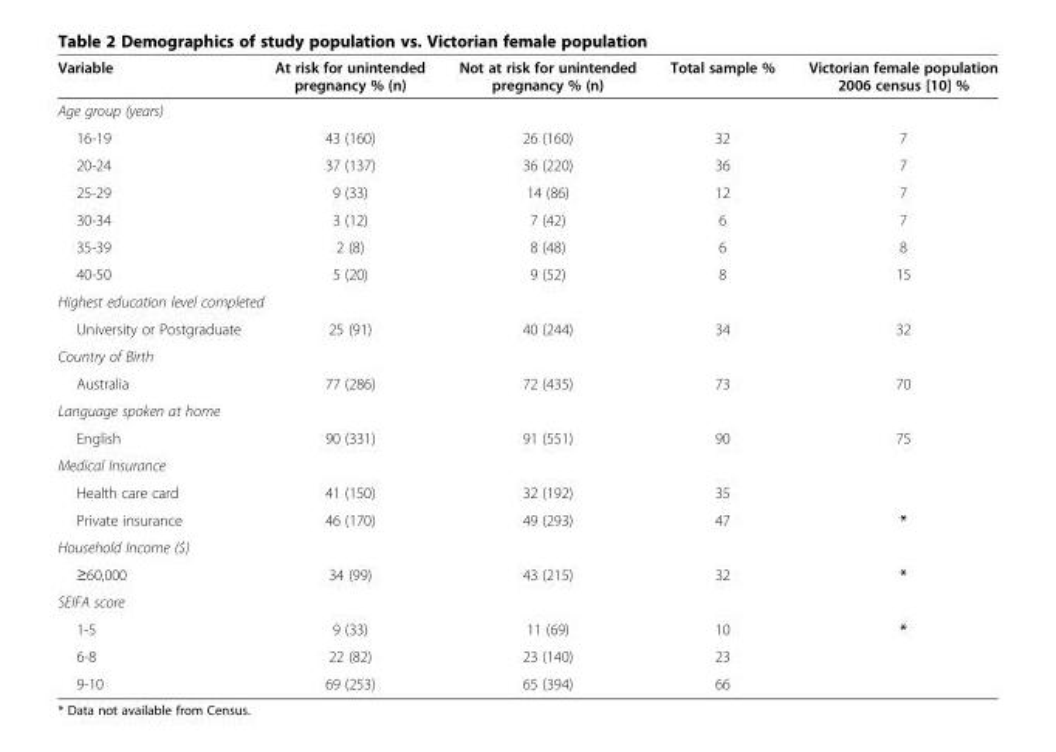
<table><thead><tr><td>Variable</td><td>At risk for unintended pregnancy % (n)</td><td>Not at risk for unintended pregnancy % (n)</td><td>Total sample %</td><td>Victorian female population 2006 census [10] %</td></tr></thead><tbody><tr><td colspan="5">Age group (years)</td></tr><tr><td>16-19</td><td>43 (160)</td><td>26 (160)</td><td>32</td><td>7</td></tr><tr><td>20-24</td><td>37 (137)</td><td>36 (220)</td><td>36</td><td>7</td></tr><tr><td>25-29</td><td>9 (33)</td><td>14 (86)</td><td>12</td><td>7</td></tr><tr><td>30-34</td><td>3 (12)</td><td>7 (42)</td><td>6</td><td>7</td></tr><tr><td>35-39</td><td>2 (8)</td><td>8 (48)</td><td>6</td><td>8</td></tr><tr><td>40-50</td><td>5 (20)</td><td>9 (52)</td><td>8</td><td>15</td></tr><tr><td colspan="5">Highest education level completed</td></tr><tr><td>University or Postgraduate</td><td>25 (91)</td><td>40 (244)</td><td>34</td><td>32</td></tr><tr><td colspan="5">Country of Birth</td></tr><tr><td>Australia</td><td>77 (286)</td><td>72 (435)</td><td>73</td><td>70</td></tr><tr><td colspan="5">Language spoken at home</td></tr><tr><td>English</td><td>90 (331)</td><td>91 (551)</td><td>90</td><td>75</td></tr><tr><td colspan="5">Medical Insurance</td></tr><tr><td>Health care card</td><td>41 (150)</td><td>32 (192)</td><td>35</td><td></td></tr><tr><td>Private insurance</td><td>46 (170)</td><td>49 (293)</td><td>47</td><td>*</td></tr><tr><td colspan="5">Household Income ($)</td></tr><tr><td>≥60,000</td><td>34 (99)</td><td>43 (215)</td><td>32</td><td>*</td></tr><tr><td colspan="5">SEIFA score</td></tr><tr><td>1-5</td><td>9 (33)</td><td>11 (69)</td><td>10</td><td>*</td></tr><tr><td>6-8</td><td>22 (82)</td><td>23 (140)</td><td>23</td><td></td></tr><tr><td>9-10</td><td>69 (253)</td><td>65 (394)</td><td>66</td><td></td></tr></tbody></table>